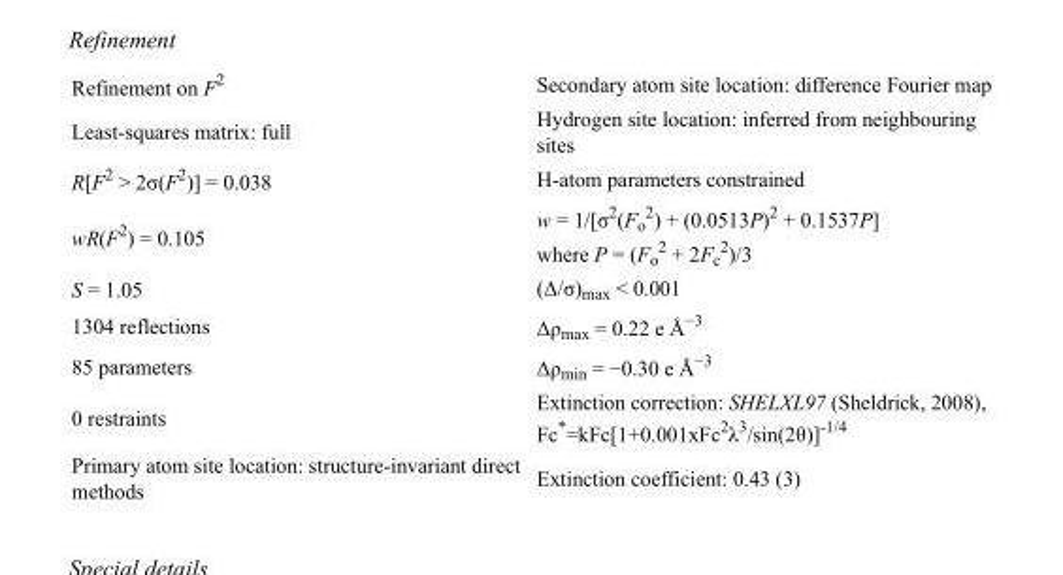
<table><tbody><tr><td>Refinement on F<sup>2</sup></td><td>Secondary atom site location: difference Fourier map</td></tr><tr><td>Least-squares matrix: full</td><td>Hydrogen site location: inferred from neighbouring sites</td></tr><tr><td>R[F<sup>2</sup> &gt; 2σ(F<sup>2</sup>)] = 0.038</td><td>H-atom parameters constrained</td></tr><tr><td>wR(F<sup>2</sup>) = 0.105</td><td>w = 1/[σ<sup>2</sup>(F<sub>o</sub> <sup>2</sup>) + (0.0513P)<sup>2</sup> + 0.1537P] where P = (F<sub>o</sub> <sup>2</sup> + 2F<sub>c</sub> <sup>2</sup>)/3</td></tr><tr><td>S = 1.05</td><td>(Δ/σ)<sub>max</sub> &lt; 0.001</td></tr><tr><td>1304 reflections</td><td>Δρ<sub>max</sub> = 0.22 e Å<sup>−3</sup></td></tr><tr><td>85 parameters</td><td>Δρ<sub>min</sub> = −0.30 e Å<sup>−3</sup></td></tr><tr><td>0 restraints</td><td>Extinction correction: SHELXL97 (Sheldrick, 2008), Fc*=kFc[1+0.001xFc<sup>2</sup>λ<sup>3</sup>/sin(2θ)]<sup>-1/4</sup></td></tr><tr><td>Primary atom site location: structure-invariant direct methods</td><td>Extinction coefficient: 0.43 (3)</td></tr></tbody></table>